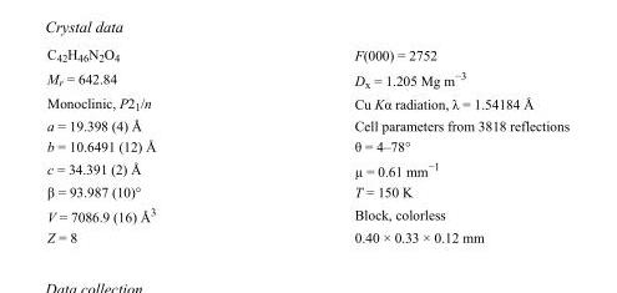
<table><tbody><tr><td>C<sub>42</sub>H<sub>46</sub>N<sub>2</sub>O<sub>4</sub></td><td>F(000) = 2752</td></tr><tr><td>M<sub>r</sub> = 642.84</td><td>D<sub>x</sub> = 1.205 Mg m<sup>−3</sup></td></tr><tr><td>Monoclinic, P2<sub>1</sub>/n</td><td>Cu Kα radiation, λ = 1.54184 Å</td></tr><tr><td>a = 19.398 (4) Å</td><td>Cell parameters from 3818 reflections</td></tr><tr><td>b = 10.6491 (12) Å</td><td>θ = 4–78°</td></tr><tr><td>c = 34.391 (2) Å</td><td>µ = 0.61 mm<sup>−1</sup></td></tr><tr><td>β = 93.987 (10)°</td><td>T = 150 K</td></tr><tr><td>V = 7086.9 (16) Å<sup>3</sup></td><td>Block, colorless</td></tr><tr><td>Z = 8</td><td>0.40 × 0.33 × 0.12 mm</td></tr></tbody></table>